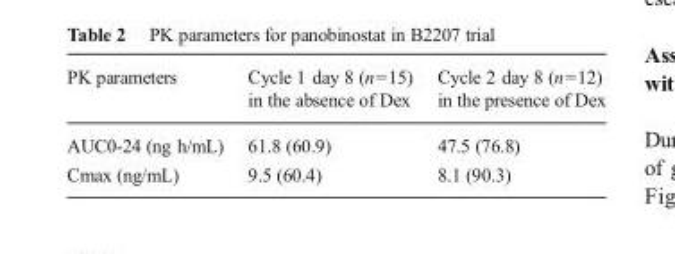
<table><thead><tr><td>PK parameters</td><td>Cycle 1 day 8 (n=15) in the absence of Dex</td><td>Cycle 2 day 8 (n=12) in the presence of Dex</td></tr></thead><tbody><tr><td>AUC0-24 (ng h/mL)</td><td>61.8 (60.9)</td><td>47.5 (76.8)</td></tr><tr><td>Cmax (ng/mL)</td><td>9.5 (60.4)</td><td>8.1 (90.3)</td></tr></tbody></table>